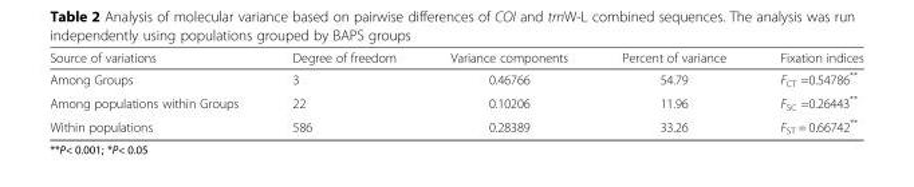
<table><thead><tr><td>Source of variations</td><td>Degree of freedom</td><td>Variance components</td><td>Percent of variance</td><td>Fixation indices</td></tr></thead><tbody><tr><td>Among Groups</td><td>3</td><td>0.46766</td><td>54.79</td><td>F<sub>CT</sub> =0.54786**</td></tr><tr><td>Among populations within Groups</td><td>22</td><td>0.10206</td><td>11.96</td><td>F<sub>SC</sub> =0.26443**</td></tr><tr><td>Within populations</td><td>586</td><td>0.28389</td><td>33.26</td><td>F<sub>ST</sub> = 0.66742**</td></tr></tbody></table>